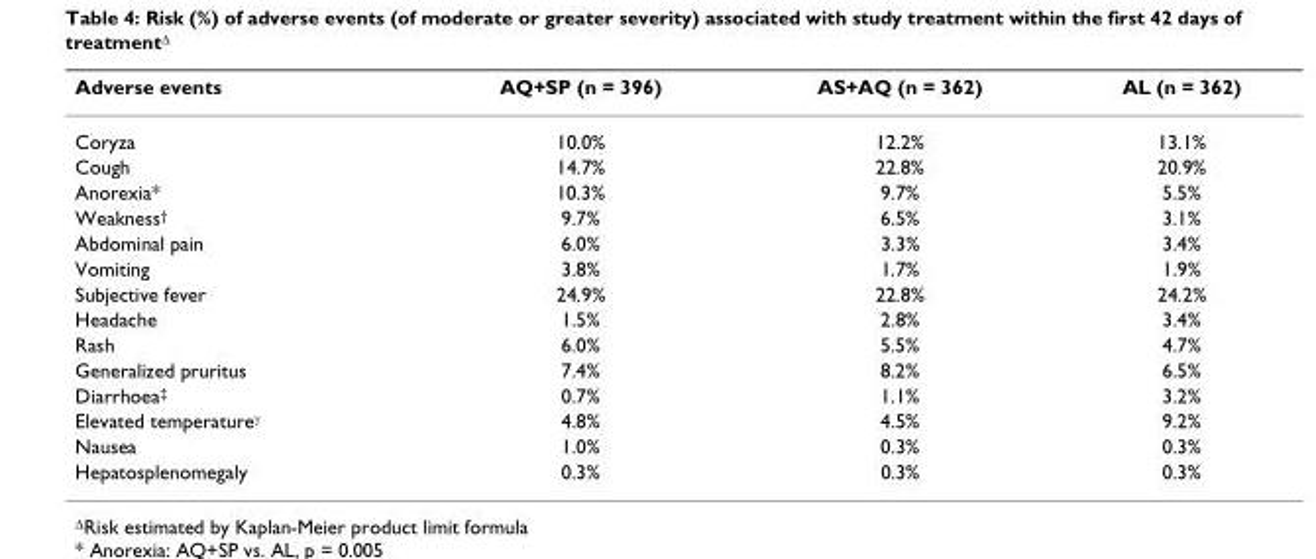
<table><thead><tr><td>Adverse events</td><td>AQ+SP (n = 396)</td><td>AS+AQ (n = 362)</td><td>AL (n = 362)</td></tr></thead><tbody><tr><td>Coryza</td><td>10.0%</td><td>12.2%</td><td>13.1%</td></tr><tr><td>Cough</td><td>14.7%</td><td>22.8%</td><td>20.9%</td></tr><tr><td>Anorexia*</td><td>10.3%</td><td>9.7%</td><td>5.5%</td></tr><tr><td>Weakness<sup>†</sup></td><td>9.7%</td><td>6.5%</td><td>3.1%</td></tr><tr><td>Abdominal pain</td><td>6.0%</td><td>3.3%</td><td>3.4%</td></tr><tr><td>Vomiting</td><td>3.8%</td><td>1.7%</td><td>1.9%</td></tr><tr><td>Subjective fever</td><td>24.9%</td><td>22.8%</td><td>24.2%</td></tr><tr><td>Headache</td><td>1.5%</td><td>2.8%</td><td>3.4%</td></tr><tr><td>Rash</td><td>6.0%</td><td>5.5%</td><td>4.7%</td></tr><tr><td>Generalized pruritus</td><td>7.4%</td><td>8.2%</td><td>6.5%</td></tr><tr><td>Diarrhoea<sup>‡</sup></td><td>0.7%</td><td>1.1%</td><td>3.2%</td></tr><tr><td>Elevated temperature<sup>γ</sup></td><td>4.8%</td><td>4.5%</td><td>9.2%</td></tr><tr><td>Nausea</td><td>1.0%</td><td>0.3%</td><td>0.3%</td></tr><tr><td>Hepatosplenomegaly</td><td>0.3%</td><td>0.3%</td><td>0.3%</td></tr></tbody></table>